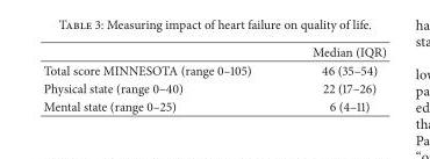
<table><thead><tr><td></td><td>Median (IQR)</td></tr></thead><tbody><tr><td>Total score MINNESOTA (range 0–105)</td><td>46 (35–54)</td></tr><tr><td>Physical state (range 0–40)</td><td>22 (17–26)</td></tr><tr><td>Mental state (range 0–25)</td><td>6 (4–11)</td></tr></tbody></table>